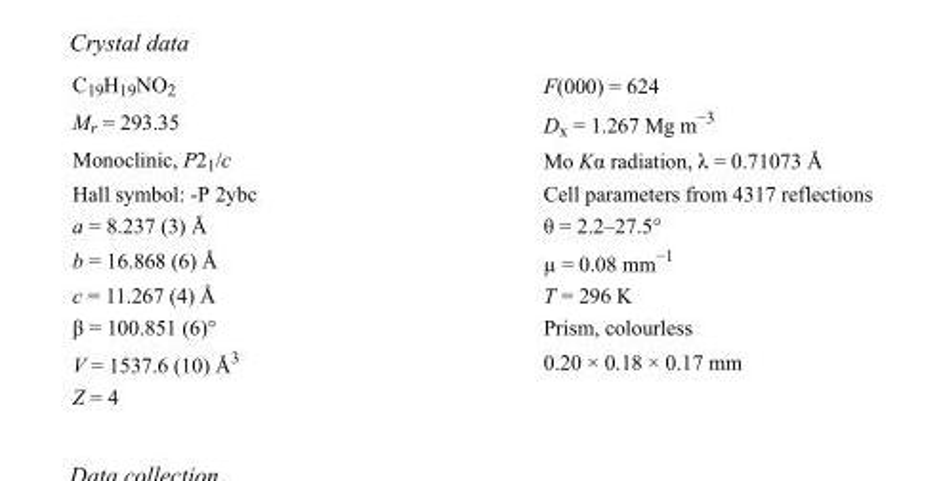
<table><tbody><tr><td>C<sub>19</sub>H<sub>19</sub>NO<sub>2</sub></td><td>F(000) = 624</td></tr><tr><td>M<sub>r</sub> = 293.35</td><td>D<sub>x</sub> = 1.267 Mg m<sup>−3</sup></td></tr><tr><td>Monoclinic, P2<sub>1</sub>/c</td><td>Mo Kα radiation, λ = 0.71073 Å</td></tr><tr><td>Hall symbol: -P 2ybc</td><td>Cell parameters from 4317 reflections</td></tr><tr><td>a = 8.237 (3) Å</td><td>θ = 2.2–27.5°</td></tr><tr><td>b = 16.868 (6) Å</td><td>µ = 0.08 mm<sup>−1</sup></td></tr><tr><td>c = 11.267 (4) Å</td><td>T = 296 K</td></tr><tr><td>β = 100.851 (6)°</td><td>Prism, colourless</td></tr><tr><td>V = 1537.6 (10) Å<sup>3</sup></td><td>0.20 × 0.18 × 0.17 mm</td></tr><tr><td>Z = 4</td><td></td></tr></tbody></table>